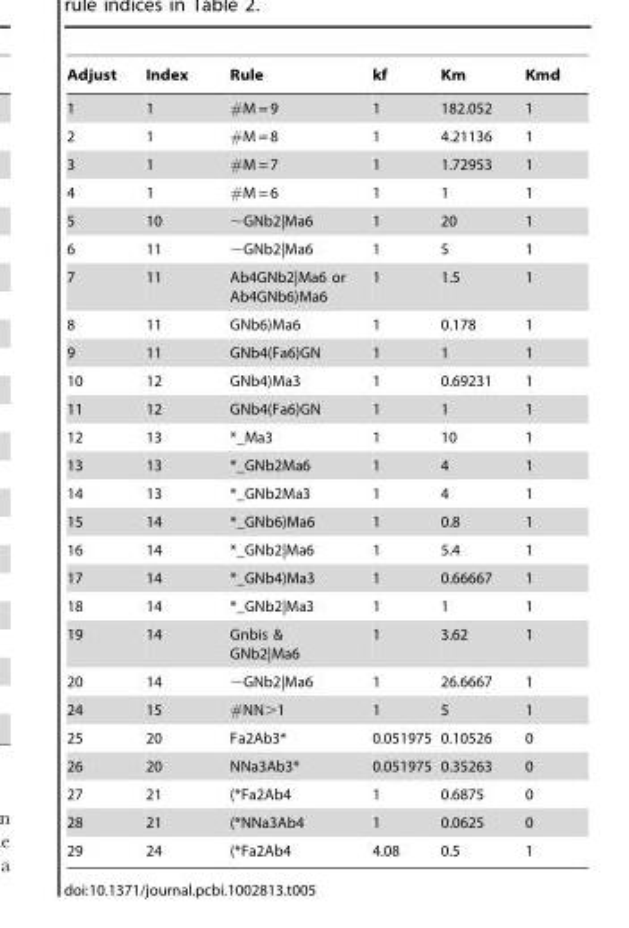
<table><thead><tr><td>Adjust</td><td>Index</td><td>Rule</td><td>kf</td><td>Km</td><td>Kmd</td></tr></thead><tbody><tr><td>1</td><td>1</td><td>#M = 9</td><td>1</td><td>182.052</td><td>1</td></tr><tr><td>2</td><td>1</td><td>#M = 8</td><td>1</td><td>4.21136</td><td>1</td></tr><tr><td>3</td><td>1</td><td>#M = 7</td><td>1</td><td>1.72953</td><td>1</td></tr><tr><td>4</td><td>1</td><td>#M = 6</td><td>1</td><td>1</td><td>1</td></tr><tr><td>5</td><td>10</td><td>∼GNb2|Ma6</td><td>1</td><td>20</td><td>1</td></tr><tr><td>6</td><td>11</td><td>∼GNb2|Ma6</td><td>1</td><td>5</td><td>1</td></tr><tr><td>7</td><td>11</td><td>Ab4GNb2|Ma6 or Ab4GNb6)Ma6</td><td>1</td><td>1.5</td><td>1</td></tr><tr><td>8</td><td>11</td><td>GNb6)Ma6</td><td>1</td><td>0.178</td><td>1</td></tr><tr><td>9</td><td>11</td><td>GNb4(Fa6)GN</td><td>1</td><td>1</td><td>1</td></tr><tr><td>10</td><td>12</td><td>GNb4)Ma3</td><td>1</td><td>0.69231</td><td>1</td></tr><tr><td>11</td><td>12</td><td>GNb4(Fa6)GN</td><td>1</td><td>1</td><td>1</td></tr><tr><td>12</td><td>13</td><td>*_Ma3</td><td>1</td><td>10</td><td>1</td></tr><tr><td>13</td><td>13</td><td>*_GNb2Ma6</td><td>1</td><td>4</td><td>1</td></tr><tr><td>14</td><td>13</td><td>*_GNb2Ma3</td><td>1</td><td>4</td><td>1</td></tr><tr><td>15</td><td>14</td><td>*_GNb6)Ma6</td><td>1</td><td>0.8</td><td>1</td></tr><tr><td>16</td><td>14</td><td>*_GNb2|Ma6</td><td>1</td><td>5.4</td><td>1</td></tr><tr><td>17</td><td>14</td><td>*_GNb4)Ma3</td><td>1</td><td>0.66667</td><td>1</td></tr><tr><td>18</td><td>14</td><td>*_GNb2|Ma3</td><td>1</td><td>1</td><td>1</td></tr><tr><td>19</td><td>14</td><td>Gnbis &amp; GNb2|Ma6</td><td>1</td><td>3.62</td><td>1</td></tr><tr><td>20</td><td>14</td><td>∼GNb2|Ma6</td><td>1</td><td>26.6667</td><td>1</td></tr><tr><td>24</td><td>15</td><td>#NN&gt;1</td><td>1</td><td>5</td><td>1</td></tr><tr><td>25</td><td>20</td><td>Fa2Ab3*</td><td>0.051975</td><td>0.10526</td><td>0</td></tr><tr><td>26</td><td>20</td><td>NNa3Ab3*</td><td>0.051975</td><td>0.35263</td><td>0</td></tr><tr><td>27</td><td>21</td><td>(*Fa2Ab4</td><td>1</td><td>0.6875</td><td>0</td></tr><tr><td>28</td><td>21</td><td>(*NNa3Ab4</td><td>1</td><td>0.0625</td><td>0</td></tr><tr><td>29</td><td>24</td><td>(*Fa2Ab4</td><td>4.08</td><td>0.5</td><td>1</td></tr></tbody></table>